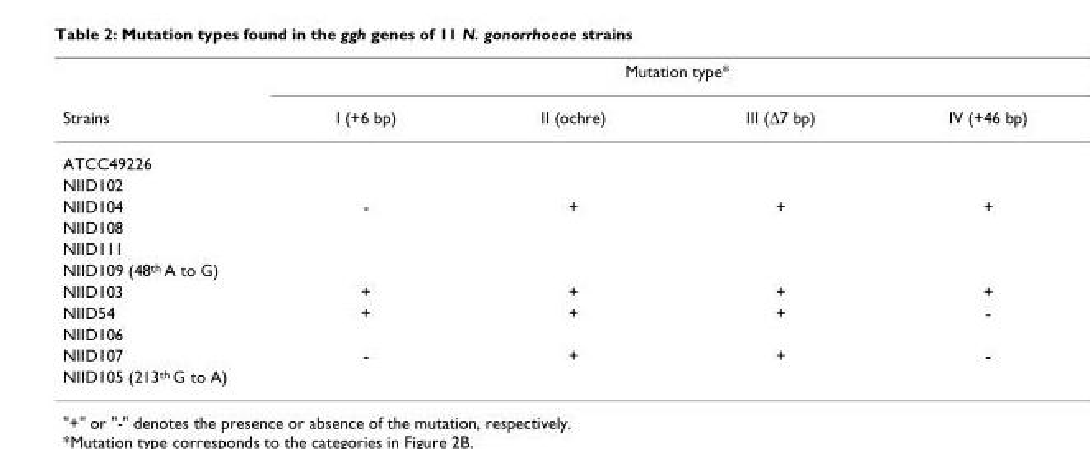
<table><thead><tr><td rowspan="2">Strains</td><td colspan="4">Mutation type*</td></tr><tr><td>I (+6 bp)</td><td>II (ochre)</td><td>III (∆7 bp)</td><td>IV (+46 bp)</td></tr></thead><tbody><tr><td colspan="5">ATCC49226</td></tr><tr><td colspan="5">NIID102</td></tr><tr><td>NIID104</td><td>-</td><td>+</td><td>+</td><td>+</td></tr><tr><td colspan="5">NIID108</td></tr><tr><td colspan="5">NIID111</td></tr><tr><td colspan="5">NIID109 (48th A to G)</td></tr><tr><td>NIID103</td><td>+</td><td>+</td><td>+</td><td>+</td></tr><tr><td>NIID54</td><td>+</td><td>+</td><td>+</td><td>-</td></tr><tr><td colspan="5">NIID106</td></tr><tr><td>NIID107</td><td>-</td><td>+</td><td>+</td><td>-</td></tr><tr><td>NIID105 (213th G to A)</td><td></td><td></td><td></td><td></td></tr></tbody></table>